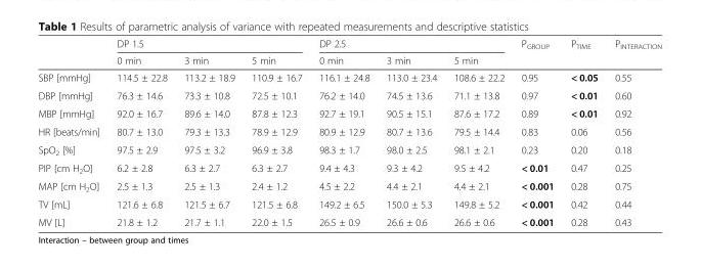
<table><thead><tr><td rowspan="2"></td><td colspan="3">DP 1.5</td><td colspan="3">DP 2.5</td><td rowspan="2">P<sub>GROUP</sub></td><td rowspan="2">P<sub>TIME</sub></td><td rowspan="2">P<sub>INTERACTION</sub></td></tr><tr><td>0 min</td><td>3 min</td><td>5 min</td><td>0 min</td><td>3 min</td><td>5 min</td></tr></thead><tbody><tr><td>SBP [mmHg]</td><td>114.5 ± 22.8</td><td>113.2 ± 18.9</td><td>110.9 ± 16.7</td><td>116.1 ± 24.8</td><td>113.0 ± 23.4</td><td>108.6 ± 22.2</td><td>0.95</td><td>&lt; 0.05</td><td>0.55</td></tr><tr><td>DBP [mmHg]</td><td>76.3 ± 14.6</td><td>73.3 ± 10.8</td><td>72.5 ± 10.1</td><td>76.2 ± 14.0</td><td>74.5 ± 13.6</td><td>71.1 ± 13.8</td><td>0.97</td><td>&lt; 0.01</td><td>0.60</td></tr><tr><td>MBP [mmHg]</td><td>92.0 ± 16.7</td><td>89.6 ± 14.0</td><td>87.8 ± 12.3</td><td>92.7 ± 19.1</td><td>90.5 ± 15.1</td><td>87.6 ± 17.2</td><td>0.89</td><td>&lt; 0.01</td><td>0.92</td></tr><tr><td>HR [beats/min]</td><td>80.7 ± 13.0</td><td>79.3 ± 13.3</td><td>78.9 ± 12.9</td><td>80.9 ± 12.9</td><td>80.7 ± 13.6</td><td>79.5 ± 14.4</td><td>0.83</td><td>0.06</td><td>0.56</td></tr><tr><td>SpO<sub>2</sub> [%]</td><td>97.5 ± 2.9</td><td>97.5 ± 3.2</td><td>96.9 ± 3.8</td><td>98.3 ± 1.7</td><td>98.0 ± 2.5</td><td>98.1 ± 2.1</td><td>0.23</td><td>0.20</td><td>0.18</td></tr><tr><td>PIP [cm H<sub>2</sub>O]</td><td>6.2 ± 2.8</td><td>6.3 ± 2.7</td><td>6.3 ± 2.7</td><td>9.4 ± 4.3</td><td>9.3 ± 4.2</td><td>9.5 ± 4.2</td><td>&lt; 0.01</td><td>0.47</td><td>0.25</td></tr><tr><td>MAP [cm H<sub>2</sub>O]</td><td>2.5 ± 1.3</td><td>2.5 ± 1.3</td><td>2.4 ± 1.2</td><td>4.5 ± 2.2</td><td>4.4 ± 2.1</td><td>4.4 ± 2.1</td><td>&lt; 0.001</td><td>0.28</td><td>0.75</td></tr><tr><td>TV [mL]</td><td>121.6 ± 6.8</td><td>121.5 ± 6.7</td><td>121.5 ± 6.8</td><td>149.2 ± 6.5</td><td>150.0 ± 5.3</td><td>149.8 ± 5.2</td><td>&lt; 0.001</td><td>0.42</td><td>0.44</td></tr><tr><td>MV [L]</td><td>21.8 ± 1.2</td><td>21.7 ± 1.1</td><td>22.0 ± 1.5</td><td>26.5 ± 0.9</td><td>26.6 ± 0.6</td><td>26.6 ± 0.6</td><td>&lt; 0.001</td><td>0.28</td><td>0.43</td></tr></tbody></table>